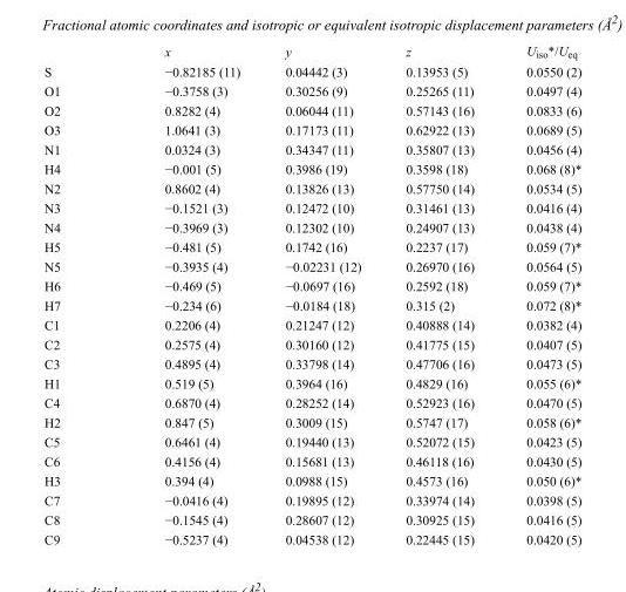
<table><thead><tr><td></td><td>x</td><td>y</td><td>z</td><td>U<sub>iso</sub>*/U<sub>eq</sub></td></tr></thead><tbody><tr><td>S</td><td>−0.82185 (11)</td><td>0.04442 (3)</td><td>0.13953 (5)</td><td>0.0550 (2)</td></tr><tr><td>O1</td><td>−0.3758 (3)</td><td>0.30256 (9)</td><td>0.25265 (11)</td><td>0.0497 (4)</td></tr><tr><td>O2</td><td>0.8282 (4)</td><td>0.06044 (11)</td><td>0.57143 (16)</td><td>0.0833 (6)</td></tr><tr><td>O3</td><td>1.0641 (3)</td><td>0.17173 (11)</td><td>0.62922 (13)</td><td>0.0689 (5)</td></tr><tr><td>N1</td><td>0.0324 (3)</td><td>0.34347 (11)</td><td>0.35807 (13)</td><td>0.0456 (4)</td></tr><tr><td>H4</td><td>−0.001 (5)</td><td>0.3986 (19)</td><td>0.3598 (18)</td><td>0.068 (8)*</td></tr><tr><td>N2</td><td>0.8602 (4)</td><td>0.13826 (13)</td><td>0.57750 (14)</td><td>0.0534 (5)</td></tr><tr><td>N3</td><td>−0.1521 (3)</td><td>0.12472 (10)</td><td>0.31461 (13)</td><td>0.0416 (4)</td></tr><tr><td>N4</td><td>−0.3969 (3)</td><td>0.12302 (10)</td><td>0.24907 (13)</td><td>0.0438 (4)</td></tr><tr><td>H5</td><td>−0.481 (5)</td><td>0.1742 (16)</td><td>0.2237 (17)</td><td>0.059 (7)*</td></tr><tr><td>N5</td><td>−0.3935 (4)</td><td>−0.02231 (12)</td><td>0.26970 (16)</td><td>0.0564 (5)</td></tr><tr><td>H6</td><td>−0.469 (5)</td><td>−0.0697 (16)</td><td>0.2592 (18)</td><td>0.059 (7)*</td></tr><tr><td>H7</td><td>−0.234 (6)</td><td>−0.0184 (18)</td><td>0.315 (2)</td><td>0.072 (8)*</td></tr><tr><td>C1</td><td>0.2206 (4)</td><td>0.21247 (12)</td><td>0.40888 (14)</td><td>0.0382 (4)</td></tr><tr><td>C2</td><td>0.2575 (4)</td><td>0.30160 (12)</td><td>0.41775 (15)</td><td>0.0407 (5)</td></tr><tr><td>C3</td><td>0.4895 (4)</td><td>0.33798 (14)</td><td>0.47706 (16)</td><td>0.0473 (5)</td></tr><tr><td>H1</td><td>0.519 (5)</td><td>0.3964 (16)</td><td>0.4829 (16)</td><td>0.055 (6)*</td></tr><tr><td>C4</td><td>0.6870 (4)</td><td>0.28252 (14)</td><td>0.52923 (16)</td><td>0.0470 (5)</td></tr><tr><td>H2</td><td>0.847 (5)</td><td>0.3009 (15)</td><td>0.5747 (17)</td><td>0.058 (6)*</td></tr><tr><td>C5</td><td>0.6461 (4)</td><td>0.19440 (13)</td><td>0.52072 (15)</td><td>0.0423 (5)</td></tr><tr><td>C6</td><td>0.4156 (4)</td><td>0.15681 (13)</td><td>0.46118 (16)</td><td>0.0430 (5)</td></tr><tr><td>H3</td><td>0.394 (4)</td><td>0.0988 (15)</td><td>0.4573 (16)</td><td>0.050 (6)*</td></tr><tr><td>C7</td><td>−0.0416 (4)</td><td>0.19895 (12)</td><td>0.33974 (14)</td><td>0.0398 (5)</td></tr><tr><td>C8</td><td>−0.1545 (4)</td><td>0.28607 (12)</td><td>0.30925 (15)</td><td>0.0416 (5)</td></tr><tr><td>C9</td><td>−0.5237 (4)</td><td>0.04538 (12)</td><td>0.22445 (15)</td><td>0.0420 (5)</td></tr></tbody></table>